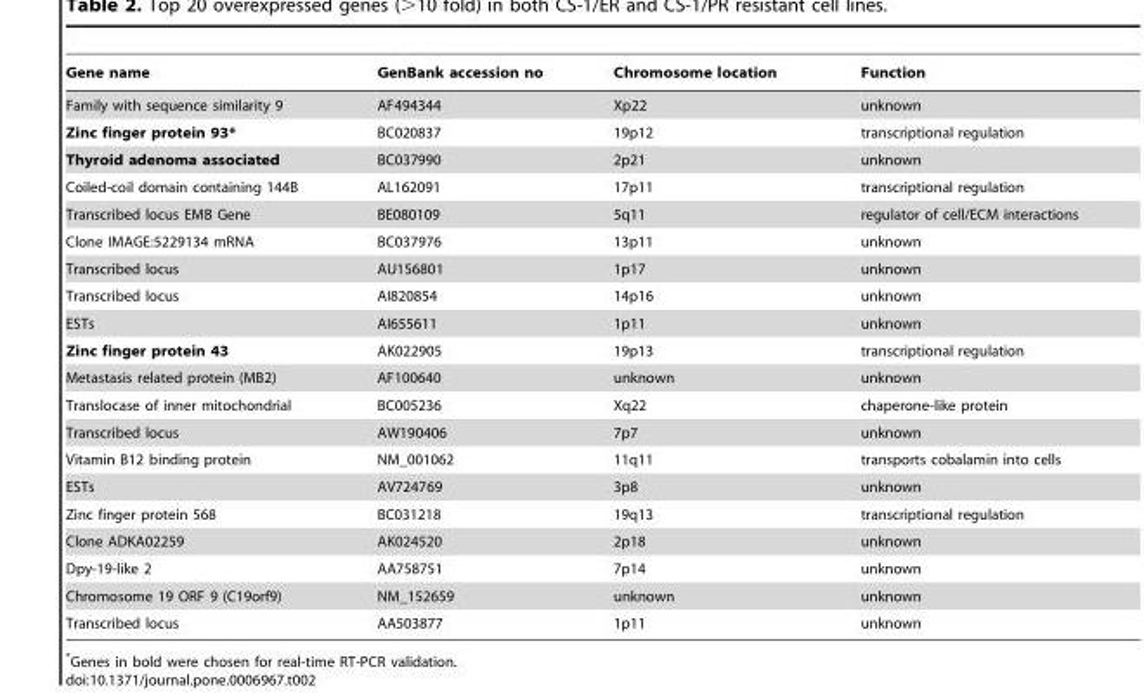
<table><thead><tr><td>Gene name</td><td>GenBank accession no</td><td>Chromosome location</td><td>Function</td></tr></thead><tbody><tr><td>Family with sequence similarity 9</td><td>AF494344</td><td>Xp22</td><td>unknown</td></tr><tr><td>Zinc finger protein 93*</td><td>BC020837</td><td>19p12</td><td>transcriptional regulation</td></tr><tr><td>Thyroid adenoma associated</td><td>BC037990</td><td>2p21</td><td>unknown</td></tr><tr><td>Coiled-coil domain containing 144B</td><td>AL162091</td><td>17p11</td><td>transcriptional regulation</td></tr><tr><td>Transcribed locus EMB Gene</td><td>BE080109</td><td>5q11</td><td>regulator of cell/ECM interactions</td></tr><tr><td>Clone IMAGE:5229134 mRNA</td><td>BC037976</td><td>13p11</td><td>unknown</td></tr><tr><td>Transcribed locus</td><td>AU156801</td><td>1p17</td><td>unknown</td></tr><tr><td>Transcribed locus</td><td>AI820854</td><td>14p16</td><td>unknown</td></tr><tr><td>ESTs</td><td>AI655611</td><td>1p11</td><td>unknown</td></tr><tr><td>Zinc finger protein 43</td><td>AK022905</td><td>19p13</td><td>transcriptional regulation</td></tr><tr><td>Metastasis related protein (MB2)</td><td>AF100640</td><td>unknown</td><td>unknown</td></tr><tr><td>Translocase of inner mitochondrial</td><td>BC005236</td><td>Xq22</td><td>chaperone-like protein</td></tr><tr><td>Transcribed locus</td><td>AW190406</td><td>7p7</td><td>unknown</td></tr><tr><td>Vitamin B12 binding protein</td><td>NM_001062</td><td>11q11</td><td>transports cobalamin into cells</td></tr><tr><td>ESTs</td><td>AV724769</td><td>3p8</td><td>unknown</td></tr><tr><td>Zinc finger protein 568</td><td>BC031218</td><td>19q13</td><td>transcriptional regulation</td></tr><tr><td>Clone ADKA02259</td><td>AK024520</td><td>2p18</td><td>unknown</td></tr><tr><td>Dpy-19-like 2</td><td>AA758751</td><td>7p14</td><td>unknown</td></tr><tr><td>Chromosome 19 ORF 9 (C19orf9)</td><td>NM_152659</td><td>unknown</td><td>unknown</td></tr><tr><td>Transcribed locus</td><td>AA503877</td><td>1p11</td><td>unknown</td></tr></tbody></table>